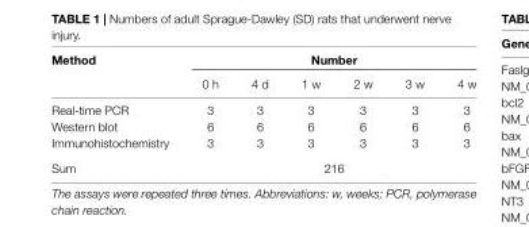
<table><thead><tr><td rowspan="2">Method</td><td colspan="6">Number</td></tr><tr><td>0 h</td><td>4 d</td><td>1 w</td><td>2 w</td><td>3 w</td><td>4 w</td></tr></thead><tbody><tr><td>Real-time PCR</td><td>3</td><td>3</td><td>3</td><td>3</td><td>3</td><td>3</td></tr><tr><td>Western blot</td><td>6</td><td>6</td><td>6</td><td>6</td><td>6</td><td>6</td></tr><tr><td>Immunohistochemistry</td><td>3</td><td>3</td><td>3</td><td>3</td><td>3</td><td>3</td></tr><tr><td>Sum</td><td colspan="6">216</td></tr></tbody></table>